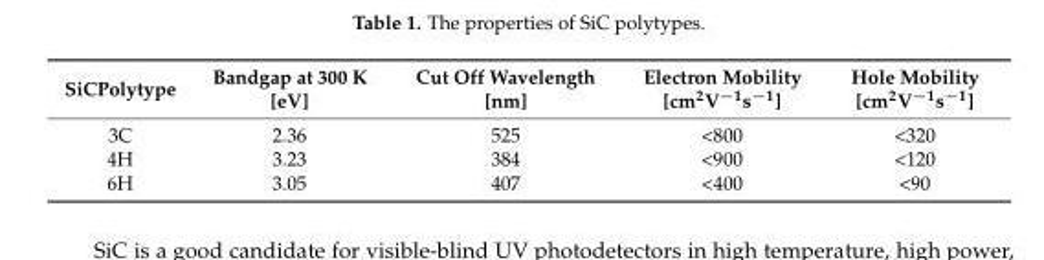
<table><thead><tr><td>SiCPolytype</td><td>Bandgap at 300 K [eV]</td><td>Cut Off Wavelength [nm]</td><td>Electron Mobility [cm<sup>2</sup>V<sup>−1</sup>s<sup>−1</sup>]</td><td>Hole Mobility [cm<sup>2</sup>V<sup>−1</sup>s<sup>−1</sup>]</td></tr></thead><tbody><tr><td>3C</td><td>2.36</td><td>525</td><td>&lt;800</td><td>&lt;320</td></tr><tr><td>4H</td><td>3.23</td><td>384</td><td>&lt;900</td><td>&lt;120</td></tr><tr><td>6H</td><td>3.05</td><td>407</td><td>&lt;400</td><td>&lt;90</td></tr></tbody></table>